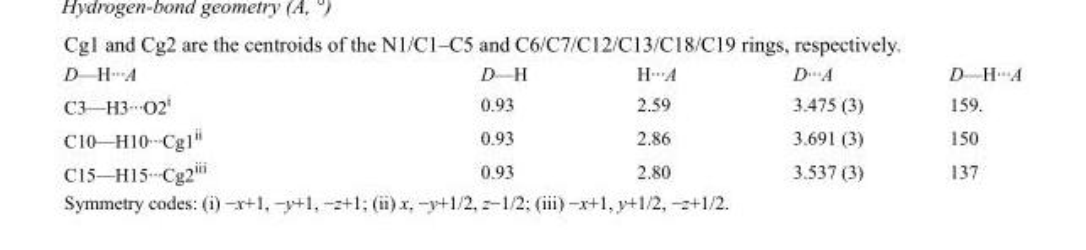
<table><tbody><tr><td>D—H···A</td><td>D—H</td><td>H···A</td><td>D···A</td><td>D—H···A</td></tr><tr><td>C3—H3···O2<sup>i</sup></td><td>0.93</td><td>2.59</td><td>3.475 (3)</td><td>159.</td></tr><tr><td>C10—H10···Cg1<sup>ii</sup></td><td>0.93</td><td>2.86</td><td>3.691 (3)</td><td>150</td></tr><tr><td>C15—H15···Cg2<sup>iii</sup></td><td>0.93</td><td>2.80</td><td>3.537 (3)</td><td>137</td></tr></tbody></table>